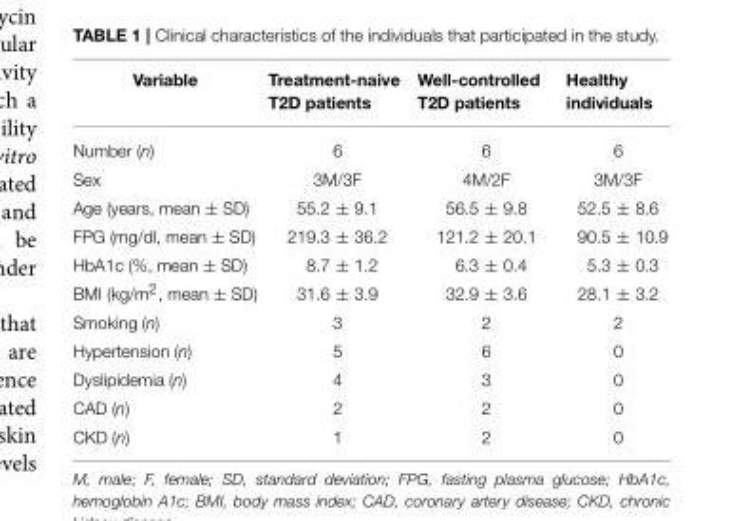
<table><thead><tr><td>Variable</td><td>Treatment-naive T2D patients</td><td>Well-controlled T2D patients</td><td>Healthy individuals</td></tr></thead><tbody><tr><td>Number (n)</td><td>6</td><td>6</td><td>6</td></tr><tr><td>Sex</td><td>3M/3F</td><td>4M/2F</td><td>3M/3F</td></tr><tr><td>Age (years, mean ± SD)</td><td>55.2 ± 9.1</td><td>56.5 ± 9.8</td><td>52.5 ± 8.6</td></tr><tr><td>FPG (mg/dl, mean ± SD)</td><td>219.3 ± 36.2</td><td>121.2 ± 20.1</td><td>90.5 ± 10.9</td></tr><tr><td>HbA1c (%, mean ± SD)</td><td>8.7 ± 1.2</td><td>6.3 ± 0.4</td><td>5.3 ± 0.3</td></tr><tr><td>BMI (kg/m<sup>2</sup>, mean ± SD)</td><td>31.6 ± 3.9</td><td>32.9 ± 3.6</td><td>28.1 ± 3.2</td></tr><tr><td>Smoking (n)</td><td>3</td><td>2</td><td>2</td></tr><tr><td>Hypertension (n)</td><td>5</td><td>6</td><td>0</td></tr><tr><td>Dyslipidemia (n)</td><td>4</td><td>3</td><td>0</td></tr><tr><td>CAD (n)</td><td>2</td><td>2</td><td>0</td></tr><tr><td>CKD (n)</td><td>1</td><td>2</td><td>0</td></tr></tbody></table>